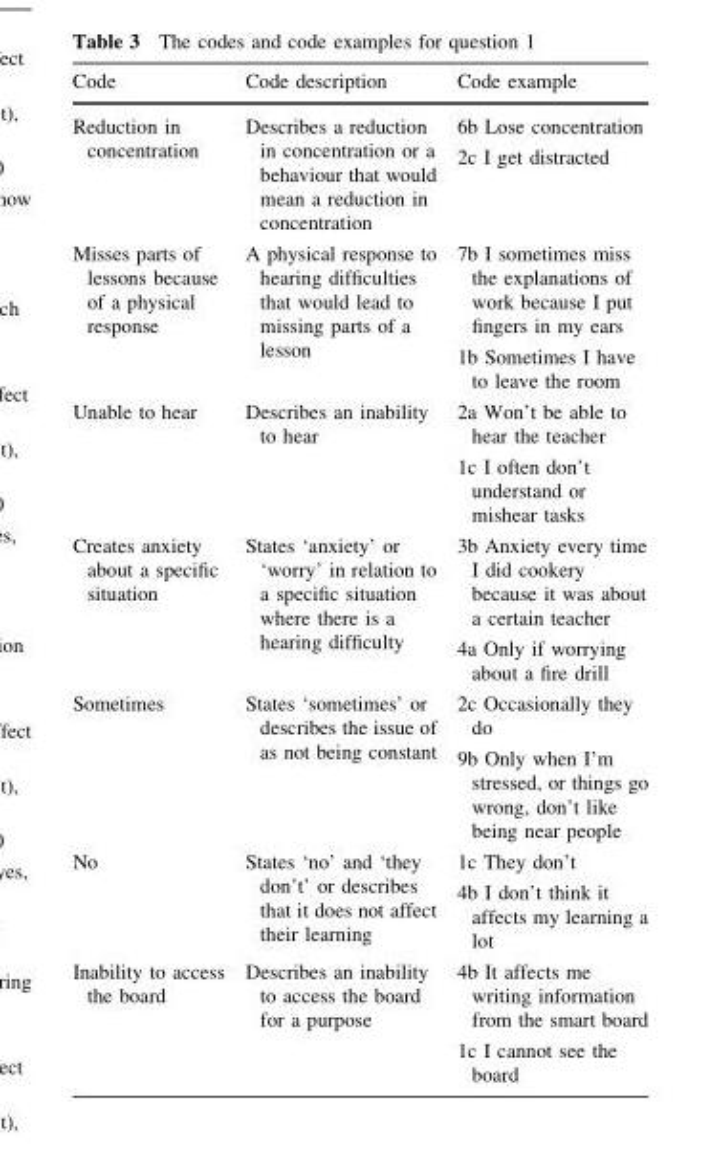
<table><thead><tr><td>Code</td><td>Code description</td><td>Code example</td></tr></thead><tbody><tr><td rowspan="2">Reduction in concentration</td><td rowspan="2">Describes a reduction in concentration or a behaviour that would mean a reduction in concentration</td><td>6b Lose concentration</td></tr><tr><td>2c I get distracted</td></tr><tr><td rowspan="2">Misses parts of lessons because of a physical response</td><td rowspan="2">A physical response to hearing difficulties that would lead to missing parts of a lesson</td><td>7b I sometimes miss the explanations of work because I put fingers in my ears</td></tr><tr><td>1b Sometimes I have to leave the room</td></tr><tr><td rowspan="2">Unable to hear</td><td rowspan="2">Describes an inability to hear</td><td>2a Won’t be able to hear the teacher</td></tr><tr><td>1c I often don’t understand or mishear tasks</td></tr><tr><td rowspan="2">Creates anxiety about a specific situation</td><td rowspan="2">States ‘anxiety’ or ‘worry’ in relation to a specific situation where there is a hearing difficulty</td><td>3b Anxiety every time I did cookery because it was about a certain teacher</td></tr><tr><td>4a Only if worrying about a fire drill</td></tr><tr><td rowspan="2">Sometimes</td><td rowspan="2">States ‘sometimes’ or describes the issue of as not being constant</td><td>2c Occasionally they do</td></tr><tr><td>9b Only when I’m stressed, or things go wrong, don’t like being near people</td></tr><tr><td rowspan="2">No</td><td rowspan="2">States ‘no’ and ‘they don’t’ or describes that it does not affect their learning</td><td>1c They don’t</td></tr><tr><td>4b I don’t think it affects my learning a lot</td></tr><tr><td rowspan="2">Inability to access the board</td><td rowspan="2">Describes an inability to access the board for a purpose</td><td>4b It affects me writing information from the smart board</td></tr><tr><td>1c I cannot see the board</td></tr></tbody></table>